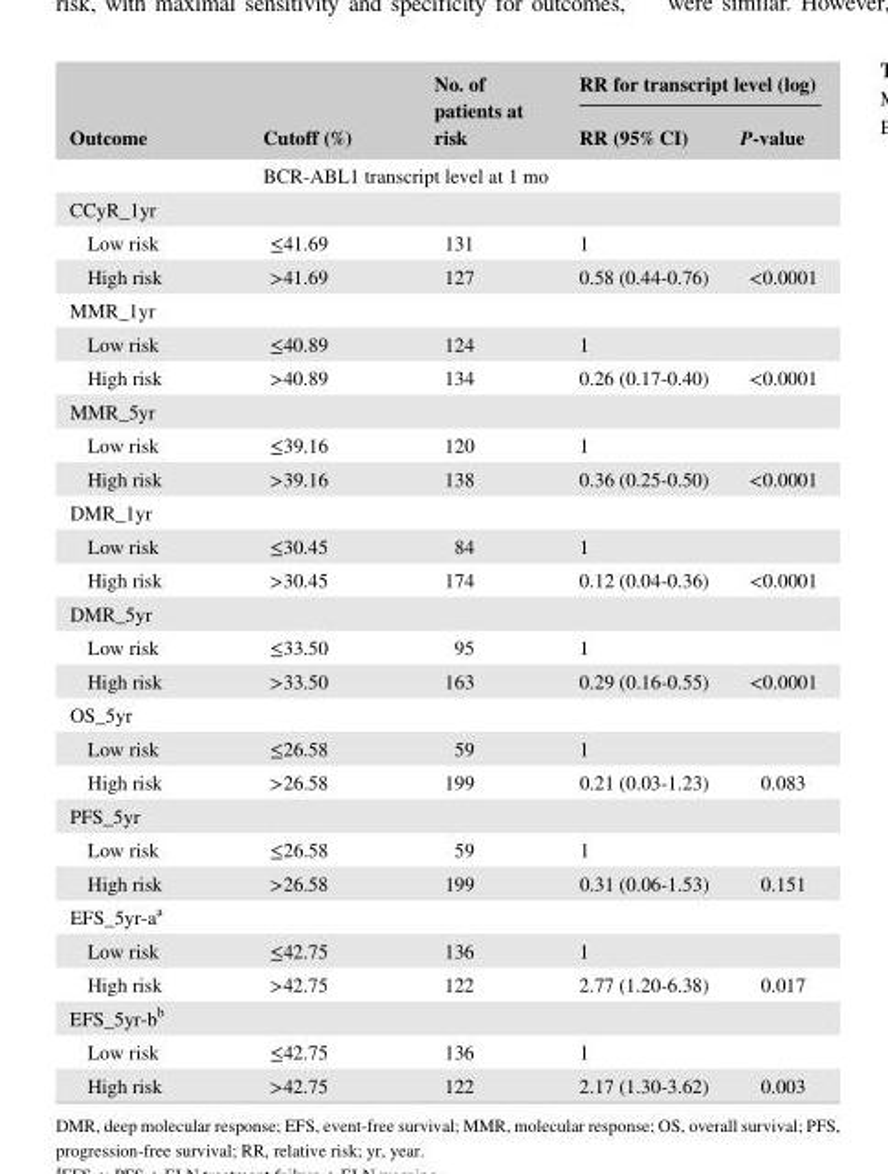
<table><thead><tr><td rowspan="2">Outcome</td><td rowspan="2">Cutoff (%)</td><td rowspan="2">No. of patients at risk</td><td colspan="2">RR for transcript level (log)</td></tr><tr><td>RR (95% CI)</td><td>P- value</td></tr></thead><tbody><tr><td></td><td colspan="4">BCR- ABL1 transcript level at 1 mo</td></tr><tr><td colspan="5">CCyR_1yr</td></tr><tr><td>Low risk</td><td>≤41.69</td><td>131</td><td>1</td><td></td></tr><tr><td>High risk</td><td>&gt;41.69</td><td>127</td><td>0.58 (0.44- 0.76)</td><td>&lt;0.0001</td></tr><tr><td colspan="5">MMR_1yr</td></tr><tr><td>Low risk</td><td>≤40.89</td><td>124</td><td>1</td><td></td></tr><tr><td>High risk</td><td>&gt;40.89</td><td>134</td><td>0.26 (0.17- 0.40)</td><td>&lt;0.0001</td></tr><tr><td colspan="5">MMR_5yr</td></tr><tr><td>Low risk</td><td>≤39.16</td><td>120</td><td>1</td><td></td></tr><tr><td>High risk</td><td>&gt;39.16</td><td>138</td><td>0.36 (0.25- 0.50)</td><td>&lt;0.0001</td></tr><tr><td colspan="5">DMR_1yr</td></tr><tr><td>Low risk</td><td>≤30.45</td><td>84</td><td>1</td><td></td></tr><tr><td>High risk</td><td>&gt;30.45</td><td>174</td><td>0.12 (0.04- 0.36)</td><td>&lt;0.0001</td></tr><tr><td colspan="5">DMR_5yr</td></tr><tr><td>Low risk</td><td>≤33.50</td><td>95</td><td>1</td><td></td></tr><tr><td>High risk</td><td>&gt;33.50</td><td>163</td><td>0.29 (0.16- 0.55)</td><td>&lt;0.0001</td></tr><tr><td colspan="5">OS_5yr</td></tr><tr><td>Low risk</td><td>≤26.58</td><td>59</td><td>1</td><td></td></tr><tr><td>High risk</td><td>&gt;26.58</td><td>199</td><td>0.21 (0.03- 1.23)</td><td>0.083</td></tr><tr><td colspan="5">PFS_5yr</td></tr><tr><td>Low risk</td><td>≤26.58</td><td>59</td><td>1</td><td></td></tr><tr><td>High risk</td><td>&gt;26.58</td><td>199</td><td>0.31 (0.06- 1.53)</td><td>0.151</td></tr><tr><td colspan="5">EFS_5yr- a<sup>a</sup></td></tr><tr><td>Low risk</td><td>≤42.75</td><td>136</td><td>1</td><td></td></tr><tr><td>High risk</td><td>&gt;42.75</td><td>122</td><td>2.77 (1.20- 6.38)</td><td>0.017</td></tr><tr><td colspan="5">EFS_5yr- b<sup>b</sup></td></tr><tr><td>Low risk</td><td>≤42.75</td><td>136</td><td>1</td><td></td></tr><tr><td>High risk</td><td>&gt;42.75</td><td>122</td><td>2.17 (1.30- 3.62)</td><td>0.003</td></tr></tbody></table>